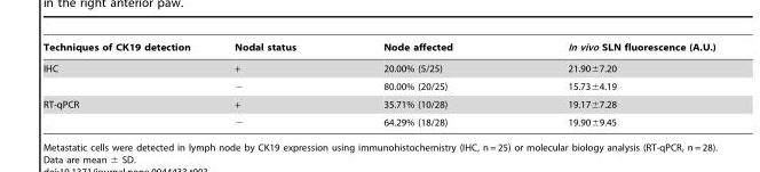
<table><thead><tr><td>Techniques of CK19 detection</td><td>Nodal status</td><td>Node affected</td><td>In vivo SLN fluorescence (A.U.)</td></tr></thead><tbody><tr><td rowspan="2">IHC</td><td>+</td><td>20.00% (5/25)</td><td>21.90±7.20</td></tr><tr><td>−</td><td>80.00% (20/25)</td><td>15.73±4.19</td></tr><tr><td rowspan="2">RT-qPCR</td><td>+</td><td>35.71% (10/28)</td><td>19.17±7.28</td></tr><tr><td>−</td><td>64.29% (18/28)</td><td>19.90±9.45</td></tr></tbody></table>